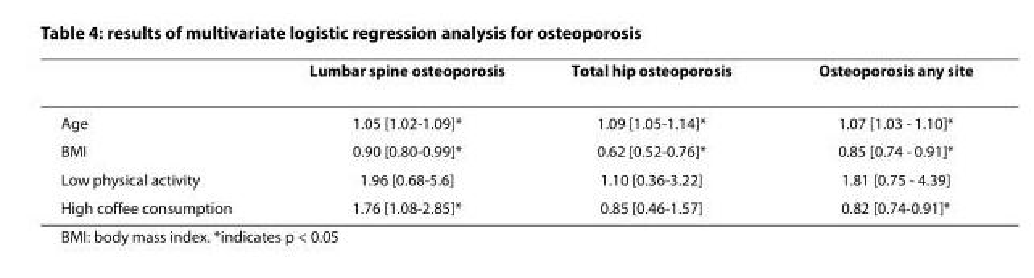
<table><thead><tr><td></td><td>Lumbar spine osteoporosis</td><td>Total hip osteoporosis</td><td>Osteoporosis any site</td></tr></thead><tbody><tr><td>Age</td><td>1.05 [1.02-1.09]*</td><td>1.09 [1.05-1.14]*</td><td>1.07 [1.03 - 1.10]*</td></tr><tr><td>BMI</td><td>0.90 [0.80-0.99]*</td><td>0.62 [0.52-0.76]*</td><td>0.85 [0.74 - 0.91]*</td></tr><tr><td>Low physical activity</td><td>1.96 [0.68-5.6]</td><td>1.10 [0.36-3.22]</td><td>1.81 [0.75 - 4.39]</td></tr><tr><td>High coffee consumption</td><td>1.76 [1.08-2.85]*</td><td>0.85 [0.46-1.57]</td><td>0.82 [0.74-0.91]*</td></tr></tbody></table>